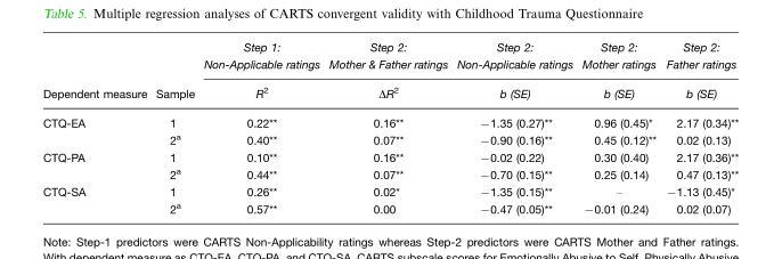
<table><thead><tr><td rowspan="2">Dependent measure</td><td rowspan="2">Sample</td><td rowspan="2">Step 1: Non-Applicable ratings R<sup>2</sup></td><td rowspan="2">Step 2: Mother &amp; Father ratings ΔR<sup>2</sup></td><td rowspan="2">Step 2: Non-Applicable ratings b (SE)</td><td rowspan="2">Step 2: Mother ratings b (SE)</td><td rowspan="2">Step 2: Father ratings b (SE)</td></tr><tr></tr></thead><tbody><tr><td rowspan="2">CTQ-EA</td><td>1</td><td>0.22**</td><td>0.16**</td><td>−1.35 (0.27)**</td><td>0.96 (0.45)*</td><td>2.17 (0.34)**</td></tr><tr><td>2<sup>a</sup></td><td>0.40**</td><td>0.07**</td><td>−0.90 (0.16)**</td><td>0.45 (0.12)**</td><td>0.02 (0.13)</td></tr><tr><td rowspan="2">CTQ-PA</td><td>1</td><td>0.10**</td><td>0.16**</td><td>−0.02 (0.22)</td><td>0.30 (0.40)</td><td>2.17 (0.36)**</td></tr><tr><td>2<sup>a</sup></td><td>0.44**</td><td>0.07**</td><td>−0.70 (0.15)**</td><td>0.25 (0.14)</td><td>0.47 (0.13)**</td></tr><tr><td rowspan="2">CTQ-SA</td><td>1</td><td>0.26**</td><td>0.02*</td><td>−1.35 (0.15)**</td><td>–</td><td>−1.13 (0.45)*</td></tr><tr><td>2<sup>a</sup></td><td>0.57**</td><td>0.00</td><td>−0.47 (0.05)**</td><td>−0.01 (0.24)</td><td>0.02 (0.07)</td></tr></tbody></table>